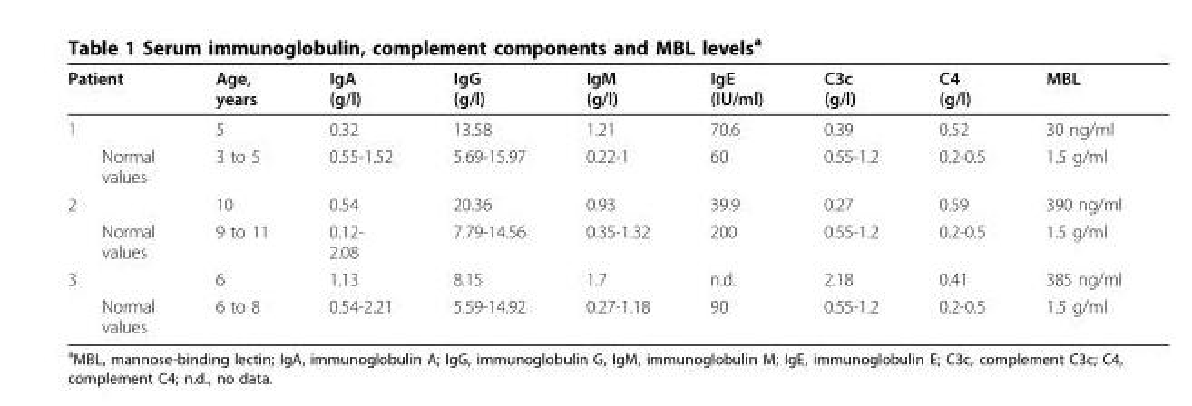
<table><thead><tr><td>Patient</td><td>Age, years</td><td>IgA (g/l)</td><td>IgG (g/l)</td><td>IgM (g/l)</td><td>IgE (IU/ml)</td><td>C3c (g/l)</td><td>C4 (g/l)</td><td>MBL</td></tr></thead><tbody><tr><td>1</td><td>5</td><td>0.32</td><td>13.58</td><td>1.21</td><td>70.6</td><td>0.39</td><td>0.52</td><td>30 ng/ml</td></tr><tr><td>Normal values</td><td>3 to 5</td><td>0.55-1.52</td><td>5.69-15.97</td><td>0.22-1</td><td>60</td><td>0.55-1.2</td><td>0.2-0.5</td><td>1.5 g/ml</td></tr><tr><td>2</td><td>10</td><td>0.54</td><td>20.36</td><td>0.93</td><td>39.9</td><td>0.27</td><td>0.59</td><td>390 ng/ml</td></tr><tr><td>Normal values</td><td>9 to 11</td><td>0.12- 2.08</td><td>7.79-14.56</td><td>0.35-1.32</td><td>200</td><td>0.55-1.2</td><td>0.2-0.5</td><td>1.5 g/ml</td></tr><tr><td>3</td><td>6</td><td>1.13</td><td>8.15</td><td>1.7</td><td>n.d.</td><td>2.18</td><td>0.41</td><td>385 ng/ml</td></tr><tr><td>Normal values</td><td>6 to 8</td><td>0.54-2.21</td><td>5.59-14.92</td><td>0.27-1.18</td><td>90</td><td>0.55-1.2</td><td>0.2-0.5</td><td>1.5 g/ml</td></tr></tbody></table>